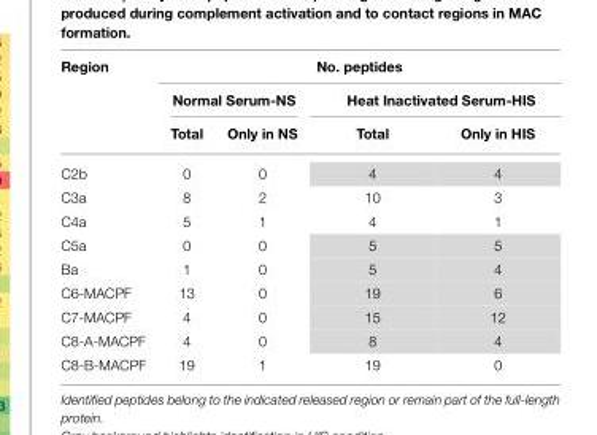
<table><thead><tr><td rowspan="3">Region</td><td colspan="4">No. peptides</td></tr><tr><td colspan="2">Normal Serum-NS</td><td colspan="2">Heat Inactivated Serum-HIS</td></tr><tr><td>Total</td><td>Only in NS</td><td>Total</td><td>Only in HIS</td></tr></thead><tbody><tr><td>C2b</td><td>0</td><td>0</td><td>4</td><td>4</td></tr><tr><td>C3a</td><td>8</td><td>2</td><td>10</td><td>3</td></tr><tr><td>C4a</td><td>5</td><td>1</td><td>4</td><td>1</td></tr><tr><td>C5a</td><td>0</td><td>0</td><td>5</td><td>5</td></tr><tr><td>Ba</td><td>1</td><td>0</td><td>5</td><td>4</td></tr><tr><td>C6-MACPF</td><td>13</td><td>0</td><td>19</td><td>6</td></tr><tr><td>C7-MACPF</td><td>4</td><td>0</td><td>15</td><td>12</td></tr><tr><td>C8-A-MACPF</td><td>4</td><td>0</td><td>8</td><td>4</td></tr><tr><td>C8-B-MACPF</td><td>19</td><td>1</td><td>19</td><td>0</td></tr></tbody></table>